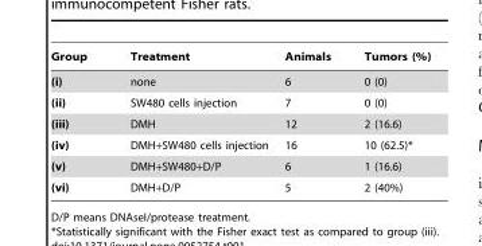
<table><thead><tr><td>Group</td><td>Treatment</td><td>Animals</td><td>Tumors (%)</td></tr></thead><tbody><tr><td>(i)</td><td>none</td><td>6</td><td>0 (0)</td></tr><tr><td>(ii)</td><td>SW480 cells injection</td><td>7</td><td>0 (0)</td></tr><tr><td>(iii)</td><td>DMH</td><td>12</td><td>2 (16.6)</td></tr><tr><td>(iv)</td><td>DMH+SW480 cells injection</td><td>16</td><td>10 (62.5)*</td></tr><tr><td>(v)</td><td>DMH+SW480+D/P</td><td>6</td><td>1 (16.6)</td></tr><tr><td>(vi)</td><td>DMH+D/P</td><td>5</td><td>2 (40%)</td></tr></tbody></table>